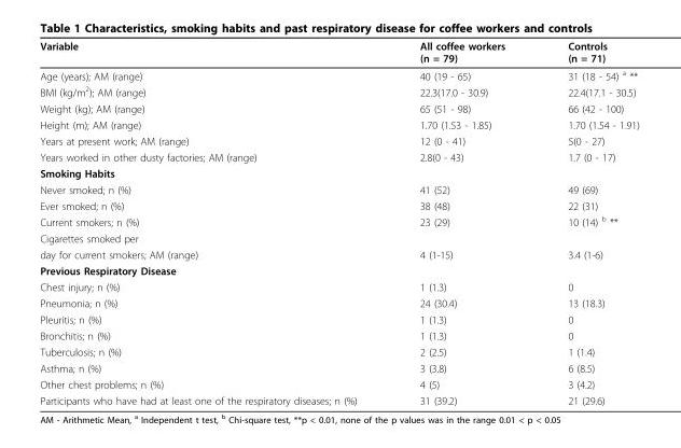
<table><thead><tr><td>Variable</td><td>All coffee workers (n = 79)</td><td>Controls (n = 71)</td></tr></thead><tbody><tr><td>Age (years); AM (range)</td><td>40 (19 - 65)</td><td>31 (18 - 54) <sup>a</sup> **</td></tr><tr><td>BMI (kg/m<sup>2</sup>); AM (range)</td><td>22.3(17.0 - 30.9)</td><td>22.4(17.1 - 30.5)</td></tr><tr><td>Weight (kg); AM (range)</td><td>65 (51 - 98)</td><td>66 (42 - 100)</td></tr><tr><td>Height (m); AM (range)</td><td>1.70 (1.53 - 1.85)</td><td>1.70 (1.54 - 1.91)</td></tr><tr><td>Years at present work; AM (range)</td><td>12 (0 - 41)</td><td>5(0 - 27)</td></tr><tr><td>Years worked in other dusty factories; AM (range)</td><td>2.8(0 - 43)</td><td>1.7 (0 - 17)</td></tr><tr><td colspan="3">Smoking Habits</td></tr><tr><td>Never smoked; n (%)</td><td>41 (52)</td><td>49 (69)</td></tr><tr><td>Ever smoked; n (%)</td><td>38 (48)</td><td>22 (31)</td></tr><tr><td>Current smokers; n (%)</td><td>23 (29)</td><td>10 (14) <sup>b</sup> **</td></tr><tr><td colspan="3">Cigarettes smoked per</td></tr><tr><td>day for current smokers; AM (range)</td><td>4 (1-15)</td><td>3.4 (1-6)</td></tr><tr><td colspan="3">Previous Respiratory Disease</td></tr><tr><td>Chest injury; n (%)</td><td>1 (1.3)</td><td>0</td></tr><tr><td>Pneumonia; n (%)</td><td>24 (30.4)</td><td>13 (18.3)</td></tr><tr><td>Pleuritis; n (%)</td><td>1 (1.3)</td><td>0</td></tr><tr><td>Bronchitis; n (%)</td><td>1 (1.3)</td><td>0</td></tr><tr><td>Tuberculosis; n (%)</td><td>2 (2.5)</td><td>1 (1.4)</td></tr><tr><td>Asthma; n (%)</td><td>3 (3.8)</td><td>6 (8.5)</td></tr><tr><td>Other chest problems; n (%)</td><td>4 (5)</td><td>3 (4.2)</td></tr><tr><td>Participants who have had at least one of the respiratory diseases; n (%)</td><td>31 (39.2)</td><td>21 (29.6)</td></tr></tbody></table>